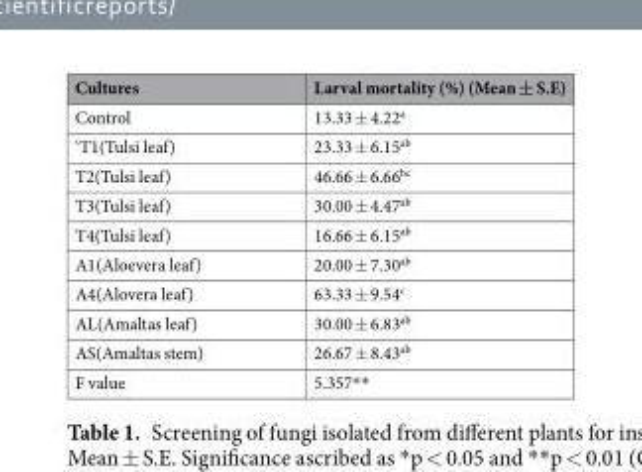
<table><thead><tr><td>Cultures</td><td>Larval mortality (%) (Mean ± S.E)</td></tr></thead><tbody><tr><td>Control</td><td>13.33 ± 4.22<sup>a</sup></td></tr><tr><td>‘T1(Tulsi leaf)</td><td>23.33 ± 6.15<sup>ab</sup></td></tr><tr><td>T2(Tulsi leaf)</td><td>46.66 ± 6.66<sup>bc</sup></td></tr><tr><td>T3(Tulsi leaf)</td><td>30.00 ± 4.47<sup>ab</sup></td></tr><tr><td>T4(Tulsi leaf)</td><td>16.66 ± 6.15<sup>ab</sup></td></tr><tr><td>A1(Aloevera leaf)</td><td>20.00 ± 7.30<sup>ab</sup></td></tr><tr><td>A4(Alovera leaf)</td><td>63.33 ± 9.54<sup>c</sup></td></tr><tr><td>AL(Amaltas leaf)</td><td>30.00 ± 6.83<sup>ab</sup></td></tr><tr><td>AS(Amaltas stem)</td><td>26.67 ± 8.43<sup>ab</sup></td></tr><tr><td>F value</td><td>5.357**</td></tr></tbody></table>